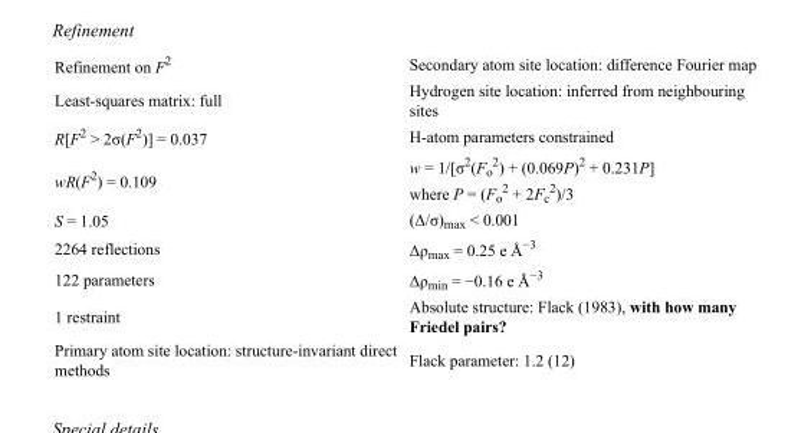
<table><tbody><tr><td>Refinement on F<sup>2</sup></td><td>Secondary atom site location: difference Fourier map</td></tr><tr><td>Least-squares matrix: full</td><td>Hydrogen site location: inferred from neighbouring sites</td></tr><tr><td>R[F<sup>2</sup> &gt; 2σ(F<sup>2</sup>)] = 0.037</td><td>H-atom parameters constrained</td></tr><tr><td>wR(F<sup>2</sup>) = 0.109</td><td>w = 1/[σ<sup>2</sup>(F<sub>o</sub> <sup>2</sup>) + (0.069P)<sup>2</sup> + 0.231P] where P = (F<sub>o</sub> <sup>2</sup> + 2F<sub>c</sub> <sup>2</sup>)/3</td></tr><tr><td>S = 1.05</td><td>(Δ/σ)<sub>max</sub> &lt; 0.001</td></tr><tr><td>2264 reflections</td><td>Δρ<sub>max</sub> = 0.25 e Å<sup>−3</sup></td></tr><tr><td>122 parameters</td><td>Δρ<sub>min</sub> = −0.16 e Å<sup>−3</sup></td></tr><tr><td>1 restraint</td><td>Absolute structure: Flack (1983), with how many Friedel pairs?</td></tr><tr><td>Primary atom site location: structure-invariant direct methods</td><td>Flack parameter: 1.2 (12)</td></tr></tbody></table>